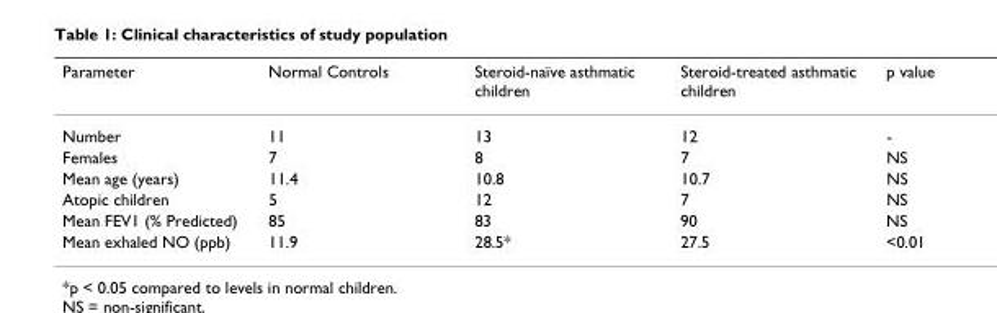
<table><thead><tr><td>Parameter</td><td>Normal Controls</td><td>Steroid-naïve asthmatic children</td><td>Steroid-treated asthmatic children</td><td>p value</td></tr></thead><tbody><tr><td>Number</td><td>11</td><td>13</td><td>12</td><td>-</td></tr><tr><td>Females</td><td>7</td><td>8</td><td>7</td><td>NS</td></tr><tr><td>Mean age (years)</td><td>11.4</td><td>10.8</td><td>10.7</td><td>NS</td></tr><tr><td>Atopic children</td><td>5</td><td>12</td><td>7</td><td>NS</td></tr><tr><td>Mean FEV1 (% Predicted)</td><td>85</td><td>83</td><td>90</td><td>NS</td></tr><tr><td>Mean exhaled NO (ppb)</td><td>11.9</td><td>28.5*</td><td>27.5</td><td>&lt;0.01</td></tr></tbody></table>